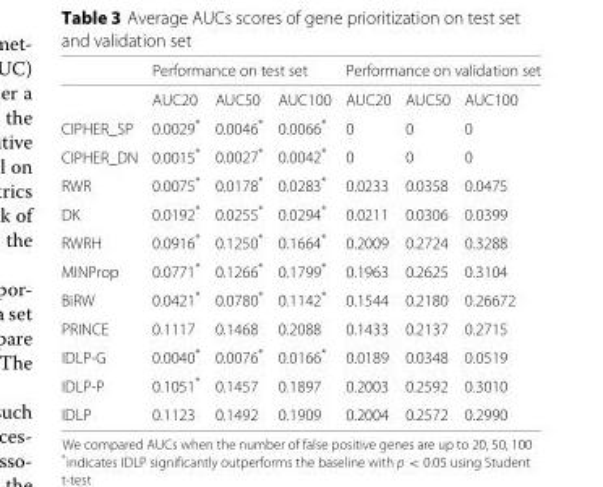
<table><thead><tr><td rowspan="2"></td><td colspan="3">Performance on test set</td><td colspan="3">Performance on validation set</td></tr><tr><td>AUC20</td><td>AUC50</td><td>AUC100</td><td>AUC20</td><td>AUC50</td><td>AUC100</td></tr></thead><tbody><tr><td>CIPHER_SP</td><td>0.0029*</td><td>0.0046*</td><td>0.0066*</td><td>0</td><td>0</td><td>0</td></tr><tr><td>CIPHER_DN</td><td>0.0015*</td><td>0.0027*</td><td>0.0042*</td><td>0</td><td>0</td><td>0</td></tr><tr><td>RWR</td><td>0.0075*</td><td>0.0178*</td><td>0.0283*</td><td>0.0233</td><td>0.0358</td><td>0.0475</td></tr><tr><td>DK</td><td>0.0192*</td><td>0.0255*</td><td>0.0294*</td><td>0.0211</td><td>0.0306</td><td>0.0399</td></tr><tr><td>RWRH</td><td>0.0916*</td><td>0.1250*</td><td>0.1664*</td><td>0.2009</td><td>0.2724</td><td>0.3288</td></tr><tr><td>MINProp</td><td>0.0771*</td><td>0.1266*</td><td>0.1799*</td><td>0.1963</td><td>0.2625</td><td>0.3104</td></tr><tr><td>BiRW</td><td>0.0421*</td><td>0.0780*</td><td>0.1142*</td><td>0.1544</td><td>0.2180</td><td>0.26672</td></tr><tr><td>PRINCE</td><td>0.1117</td><td>0.1468</td><td>0.2088</td><td>0.1433</td><td>0.2137</td><td>0.2715</td></tr><tr><td>IDLP-G</td><td>0.0040*</td><td>0.0076*</td><td>0.0166*</td><td>0.0189</td><td>0.0348</td><td>0.0519</td></tr><tr><td>IDLP-P</td><td>0.1051*</td><td>0.1457</td><td>0.1897</td><td>0.2003</td><td>0.2592</td><td>0.3010</td></tr><tr><td>IDLP</td><td>0.1123</td><td>0.1492</td><td>0.1909</td><td>0.2004</td><td>0.2572</td><td>0.2990</td></tr></tbody></table>